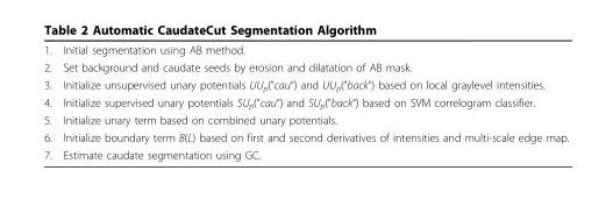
<table><tbody><tr><td>1.</td><td>Initial segmentation using AB method.</td></tr><tr><td>2.</td><td>Set background and caudate seeds by erosion and dilatation of AB mask.</td></tr><tr><td>3.</td><td>Initialize unsupervised unary potentials UUp(”cau“) and UUp(”back“) based on local graylevel intensities.</td></tr><tr><td>4.</td><td>Initialize supervised unary potentials SUp(”cau“) and SUp(”back“) based on SVM correlogram classifier.</td></tr><tr><td>5.</td><td>Initialize unary term based on combined unary potentials.</td></tr><tr><td>6.</td><td>Initialize boundary term B(L) based on first and second derivatives of intensities and multi-scale edge map.</td></tr><tr><td>7.</td><td>Estimate caudate segmentation using GC.</td></tr></tbody></table>